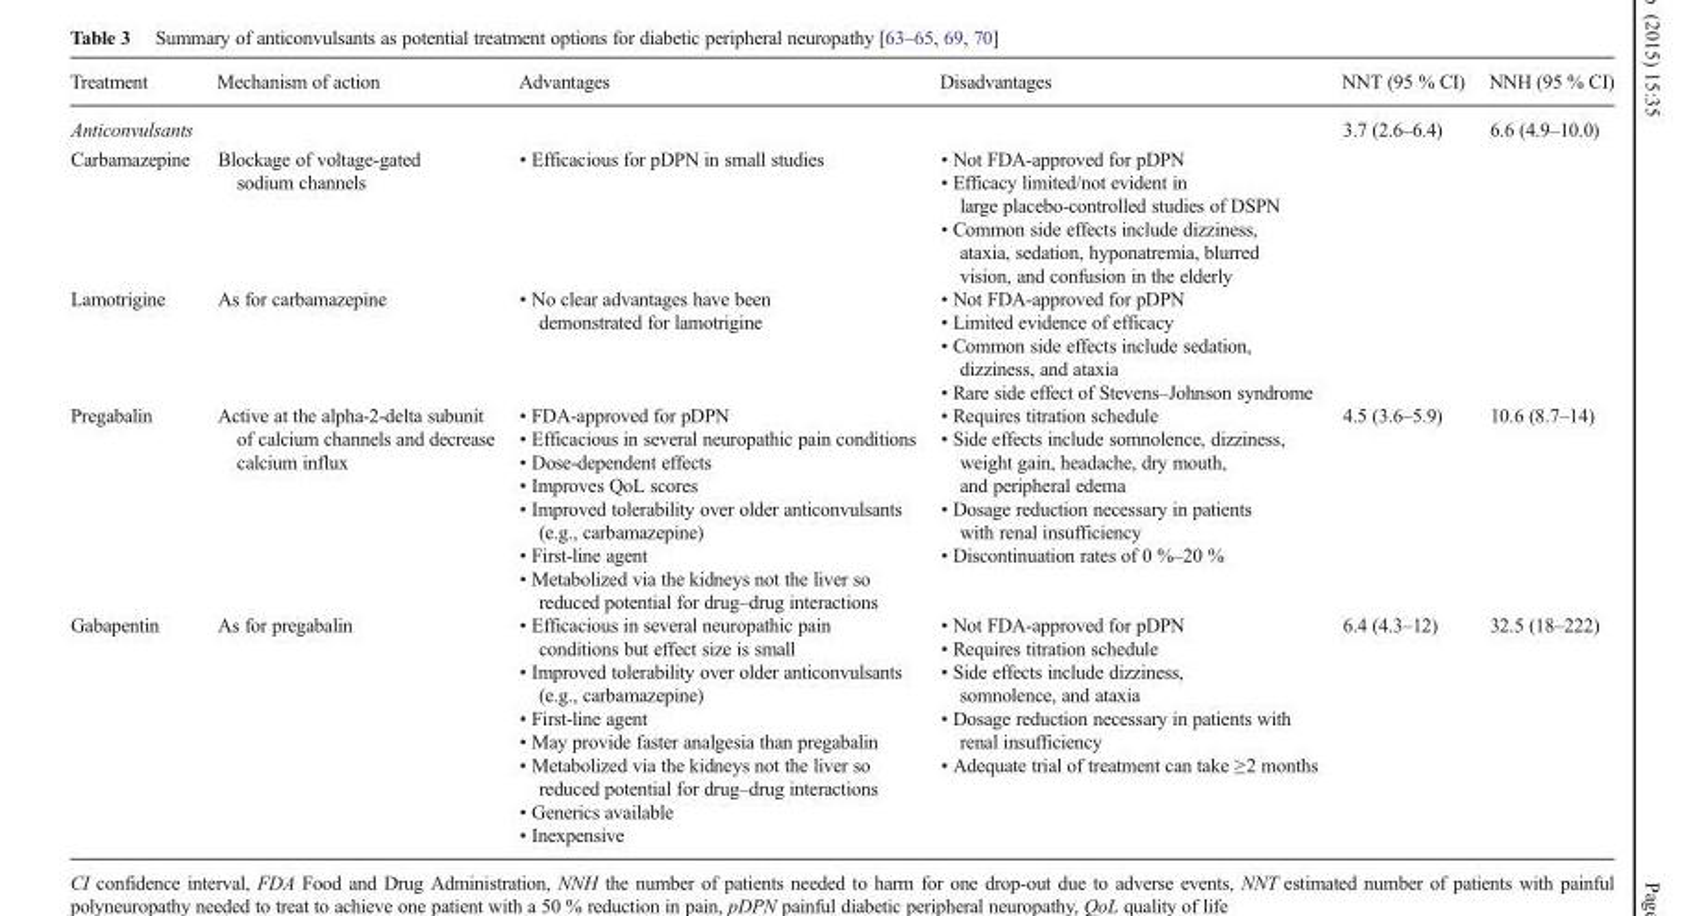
<table><thead><tr><td>Treatment</td><td>Mechanism of action</td><td>Advantages</td><td>Disadvantages</td><td>NNT (95 % CI)</td><td>NNH (95 % CI)</td></tr></thead><tbody><tr><td>Anticonvulsants</td><td></td><td></td><td></td><td>3.7 (2.6–6.4)</td><td>6.6 (4.9–10.0)</td></tr><tr><td>Carbamazepine</td><td>Blockage of voltage-gated sodium channels</td><td>• Efficacious for pDPN in small studies</td><td>• Not FDA-approved for pDPN • Efficacy limited/not evident in large placebo-controlled studies of DSPN • Common side effects include dizziness, ataxia, sedation, hyponatremia, blurred vision, and confusion in the elderly</td><td></td><td></td></tr><tr><td>Lamotrigine</td><td>As for carbamazepine</td><td>• No clear advantages have been demonstrated for lamotrigine</td><td>• Not FDA-approved for pDPN • Limited evidence of efficacy • Common side effects include sedation, dizziness, and ataxia • Rare side effect of Stevens–Johnson syndrome</td><td></td><td></td></tr><tr><td>Pregabalin</td><td>Active at the alpha-2-delta subunit of calcium channels and decrease calcium influx</td><td>• FDA-approved for pDPN • Efficacious in several neuropathic pain conditions • Dose-dependent effects • Improves QoL scores • Improved tolerability over older anticonvulsants (e.g., carbamazepine) • First-line agent • Metabolized via the kidneys not the liver so reduced potential for drug–drug interactions</td><td>• Requires titration schedule • Side effects include somnolence, dizziness, weight gain, headache, dry mouth, and peripheral edema • Dosage reduction necessary in patients with renal insufficiency • Discontinuation rates of 0 %–20 %</td><td>4.5 (3.6–5.9)</td><td>10.6 (8.7–14)</td></tr><tr><td>Gabapentin</td><td>As for pregabalin</td><td>• Efficacious in several neuropathic pain conditions but effect size is small • Improved tolerability over older anticonvulsants (e.g., carbamazepine) • First-line agent • May provide faster analgesia than pregabalin • Metabolized via the kidneys not the liver so reduced potential for drug–drug interactions • Generics available • Inexpensive</td><td>• Not FDA-approved for pDPN • Requires titration schedule • Side effects include dizziness, somnolence, and ataxia • Dosage reduction necessary in patients with renal insufficiency • Adequate trial of treatment can take ≥2 months</td><td>6.4 (4.3–12)</td><td>32.5 (18–222)</td></tr></tbody></table>